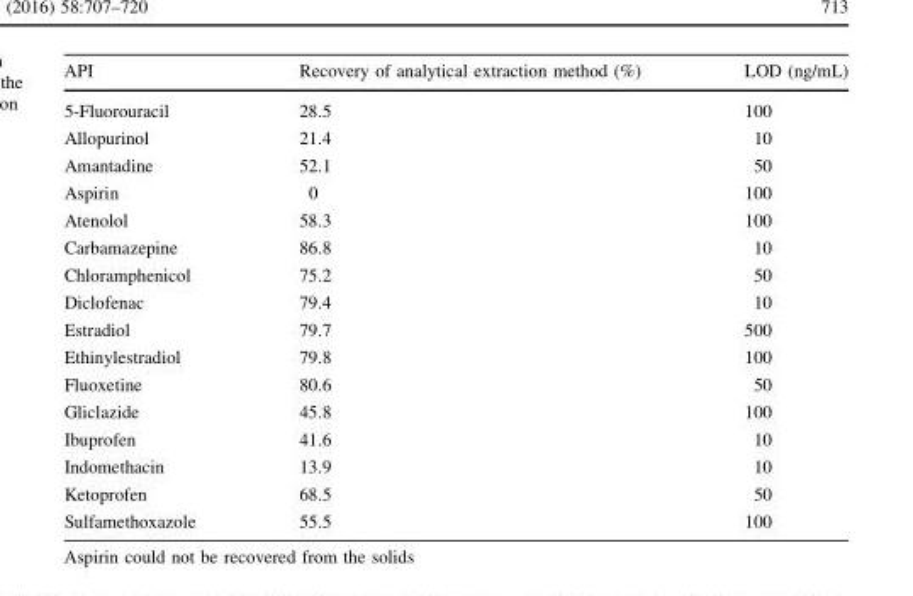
<table><thead><tr><td>API</td><td>Recovery of analytical extraction method (%)</td><td>LOD (ng/mL)</td></tr></thead><tbody><tr><td>5-Fluorouracil</td><td>28.5</td><td>100</td></tr><tr><td>Allopurinol</td><td>21.4</td><td>10</td></tr><tr><td>Amantadine</td><td>52.1</td><td>50</td></tr><tr><td>Aspirin</td><td>0</td><td>100</td></tr><tr><td>Atenolol</td><td>58.3</td><td>100</td></tr><tr><td>Carbamazepine</td><td>86.8</td><td>10</td></tr><tr><td>Chloramphenicol</td><td>75.2</td><td>50</td></tr><tr><td>Diclofenac</td><td>79.4</td><td>10</td></tr><tr><td>Estradiol</td><td>79.7</td><td>500</td></tr><tr><td>Ethinylestradiol</td><td>79.8</td><td>100</td></tr><tr><td>Fluoxetine</td><td>80.6</td><td>50</td></tr><tr><td>Gliclazide</td><td>45.8</td><td>100</td></tr><tr><td>Ibuprofen</td><td>41.6</td><td>10</td></tr><tr><td>Indomethacin</td><td>13.9</td><td>10</td></tr><tr><td>Ketoprofen</td><td>68.5</td><td>50</td></tr><tr><td>Sulfamethoxazole</td><td>55.5</td><td>100</td></tr></tbody></table>